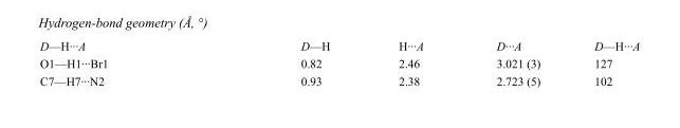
<table><tbody><tr><td>D—H···A</td><td>D—H</td><td>H···A</td><td>D···A</td><td>D—H···A</td></tr><tr><td>O1—H1···Br1</td><td>0.82</td><td>2.46</td><td>3.021 (3)</td><td>127</td></tr><tr><td>C7—H7···N2</td><td>0.93</td><td>2.38</td><td>2.723 (5)</td><td>102</td></tr></tbody></table>